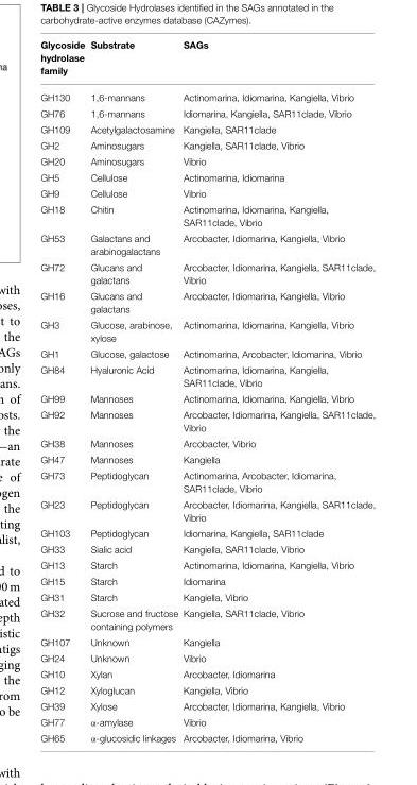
<table><thead><tr><td>Glycoside hydrolase family</td><td>Substrate</td><td>SAGs</td></tr></thead><tbody><tr><td>GH130</td><td>1,6-mannans</td><td>Actinomarina, Idiomarina, Kangiella, Vibrio</td></tr><tr><td>GH76</td><td>1,6-mannans</td><td>Idiomarina, Kangiella, SAR11clade, Vibrio</td></tr><tr><td>GH109</td><td>Acetylgalactosamine</td><td>Kangiella, SAR11clade</td></tr><tr><td>GH2</td><td>Aminosugars</td><td>Kangiella, SAR11clade, Vibrio</td></tr><tr><td>GH20</td><td>Aminosugars</td><td>Vibrio</td></tr><tr><td>GH5</td><td>Cellulose</td><td>Actinomarina, Idiomarina</td></tr><tr><td>GH9</td><td>Cellulose</td><td>Vibrio</td></tr><tr><td>GH18</td><td>Chitin</td><td>Actinomarina, Idiomarina, Kangiella, SAR11clade, Vibrio</td></tr><tr><td>GH53</td><td>Galactans and arabinogalactans</td><td>Arcobacter, Idiomarina, Kangiella, Vibrio</td></tr><tr><td>GH72</td><td>Glucans and galactans</td><td>Arcobacter, Idiomarina, Kangiella, SAR11clade, Vibrio</td></tr><tr><td>GH16</td><td>Glucans and galactans</td><td>Arcobacter, Idiomarina, Kangiella, Vibrio</td></tr><tr><td>GH3</td><td>Glucose, arabinose, xylose</td><td>Actinomarina, Idiomarina, Kangiella, Vibrio</td></tr><tr><td>GH1</td><td>Glucose, galactose</td><td>Actinomarina, Arcobacter, Idiomarina, Vibrio</td></tr><tr><td>GH84</td><td>Hyaluronic Acid</td><td>Actinomarina, Idiomarina, Kangiella, SAR11clade, Vibrio</td></tr><tr><td>GH99</td><td>Mannoses</td><td>Actinomarina, Idiomarina, Kangiella, Vibrio</td></tr><tr><td>GH92</td><td>Mannoses</td><td>Arcobacter, Idiomarina, Kangiella, SAR11clade, Vibrio</td></tr><tr><td>GH38</td><td>Mannoses</td><td>Arcobacter, Vibrio</td></tr><tr><td>GH47</td><td>Mannoses</td><td>Kangiella</td></tr><tr><td>GH73</td><td>Peptidoglycan</td><td>Actinomarina, Arcobacter, Idiomarina, SAR11clade, Vibrio</td></tr><tr><td>GH23</td><td>Peptidoglycan</td><td>Arcobacter, Idiomarina, Kangiella, SAR11clade, Vibrio</td></tr><tr><td>GH103</td><td>Peptidoglycan</td><td>Idiomarina, Kangiella, SAR11clade</td></tr><tr><td>GH33</td><td>Sialic acid</td><td>Kangiella, SAR11clade, Vibrio</td></tr><tr><td>GH13</td><td>Starch</td><td>Actinomarina, Idiomarina, Kangiella, Vibrio</td></tr><tr><td>GH15</td><td>Starch</td><td>Idiomarina</td></tr><tr><td>GH31</td><td>Starch</td><td>Kangiella, Vibrio</td></tr><tr><td>GH32</td><td>Sucrose and fructose containing polymers</td><td>Kangiella, SAR11clade, Vibrio</td></tr><tr><td>GH107</td><td>Unknown</td><td>Kangiella</td></tr><tr><td>GH24</td><td>Unknown</td><td>Vibrio</td></tr><tr><td>GH10</td><td>Xylan</td><td>Arcobacter, Idiomarina</td></tr><tr><td>GH12</td><td>Xyloglucan</td><td>Kangiella, Vibrio</td></tr><tr><td>GH39</td><td>Xylose</td><td>Arcobacter, Idiomarina, Kangiella, Vibrio</td></tr><tr><td>GH77</td><td>α-amylase</td><td>Vibrio</td></tr><tr><td>GH65</td><td>α-glucosidic linkages</td><td>Arcobacter, Idiomarina, Vibrio</td></tr></tbody></table>